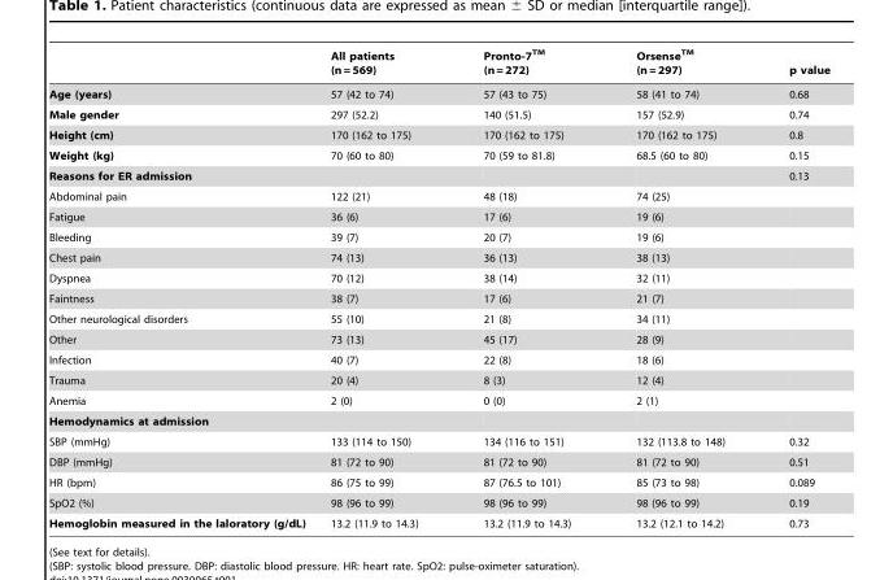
<table><thead><tr><td></td><td>All patients (n = 569)</td><td>Pronto-7TM (n = 272)</td><td>OrsenseTM (n = 297)</td><td>p value</td></tr></thead><tbody><tr><td>Age (years)</td><td>57 (42 to 74)</td><td>57 (43 to 75)</td><td>58 (41 to 74)</td><td>0.68</td></tr><tr><td>Male gender</td><td>297 (52.2)</td><td>140 (51.5)</td><td>157 (52.9)</td><td>0.74</td></tr><tr><td>Height (cm)</td><td>170 (162 to 175)</td><td>170 (162 to 175)</td><td>170 (162 to 175)</td><td>0.8</td></tr><tr><td>Weight (kg)</td><td>70 (60 to 80)</td><td>70 (59 to 81.8)</td><td>68.5 (60 to 80)</td><td>0.15</td></tr><tr><td>Reasons for ER admission</td><td></td><td></td><td></td><td>0.13</td></tr><tr><td>Abdominal pain</td><td>122 (21)</td><td>48 (18)</td><td>74 (25)</td><td></td></tr><tr><td>Fatigue</td><td>36 (6)</td><td>17 (6)</td><td>19 (6)</td><td></td></tr><tr><td>Bleeding</td><td>39 (7)</td><td>20 (7)</td><td>19 (6)</td><td></td></tr><tr><td>Chest pain</td><td>74 (13)</td><td>36 (13)</td><td>38 (13)</td><td></td></tr><tr><td>Dyspnea</td><td>70 (12)</td><td>38 (14)</td><td>32 (11)</td><td></td></tr><tr><td>Faintness</td><td>38 (7)</td><td>17 (6)</td><td>21 (7)</td><td></td></tr><tr><td>Other neurological disorders</td><td>55 (10)</td><td>21 (8)</td><td>34 (11)</td><td></td></tr><tr><td>Other</td><td>73 (13)</td><td>45 (17)</td><td>28 (9)</td><td></td></tr><tr><td>Infection</td><td>40 (7)</td><td>22 (8)</td><td>18 (6)</td><td></td></tr><tr><td>Trauma</td><td>20 (4)</td><td>8 (3)</td><td>12 (4)</td><td></td></tr><tr><td>Anemia</td><td>2 (0)</td><td>0 (0)</td><td>2 (1)</td><td></td></tr><tr><td colspan="5">Hemodynamics at admission</td></tr><tr><td>SBP (mmHg)</td><td>133 (114 to 150)</td><td>134 (116 to 151)</td><td>132 (113.8 to 148)</td><td>0.32</td></tr><tr><td>DBP (mmHg)</td><td>81 (72 to 90)</td><td>81 (72 to 90)</td><td>81 (72 to 90)</td><td>0.51</td></tr><tr><td>HR (bpm)</td><td>86 (75 to 99)</td><td>87 (76.5 to 101)</td><td>85 (73 to 98)</td><td>0.089</td></tr><tr><td>SpO2 (%)</td><td>98 (96 to 99)</td><td>98 (96 to 99)</td><td>98 (96 to 99)</td><td>0.19</td></tr><tr><td>Hemoglobin measured in the laloratory (g/dL)</td><td>13.2 (11.9 to 14.3)</td><td>13.2 (11.9 to 14.3)</td><td>13.2 (12.1 to 14.2)</td><td>0.73</td></tr></tbody></table>